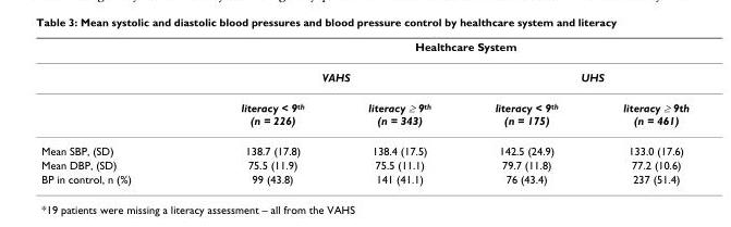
<table><thead><tr><td rowspan="3"></td><td colspan="4">Healthcare System</td></tr><tr><td colspan="2">VAHS</td><td colspan="2">UHS</td></tr><tr><td>literacy &lt; 9<sup>th</sup> (n = 226)</td><td>literacy ≥ 9<sup>th</sup> (n = 343)</td><td>literacy &lt; 9<sup>th</sup> (n = 175)</td><td>literacy ≥ 9th (n = 461)</td></tr></thead><tbody><tr><td>Mean SBP, (SD)</td><td>138.7 (17.8)</td><td>138.4 (17.5)</td><td>142.5 (24.9)</td><td>133.0 (17.6)</td></tr><tr><td>Mean DBP, (SD)</td><td>75.5 (11.9)</td><td>75.5 (11.1)</td><td>79.7 (11.8)</td><td>77.2 (10.6)</td></tr><tr><td>BP in control, n (%)</td><td>99 (43.8)</td><td>141 (41.1)</td><td>76 (43.4)</td><td>237 (51.4)</td></tr></tbody></table>